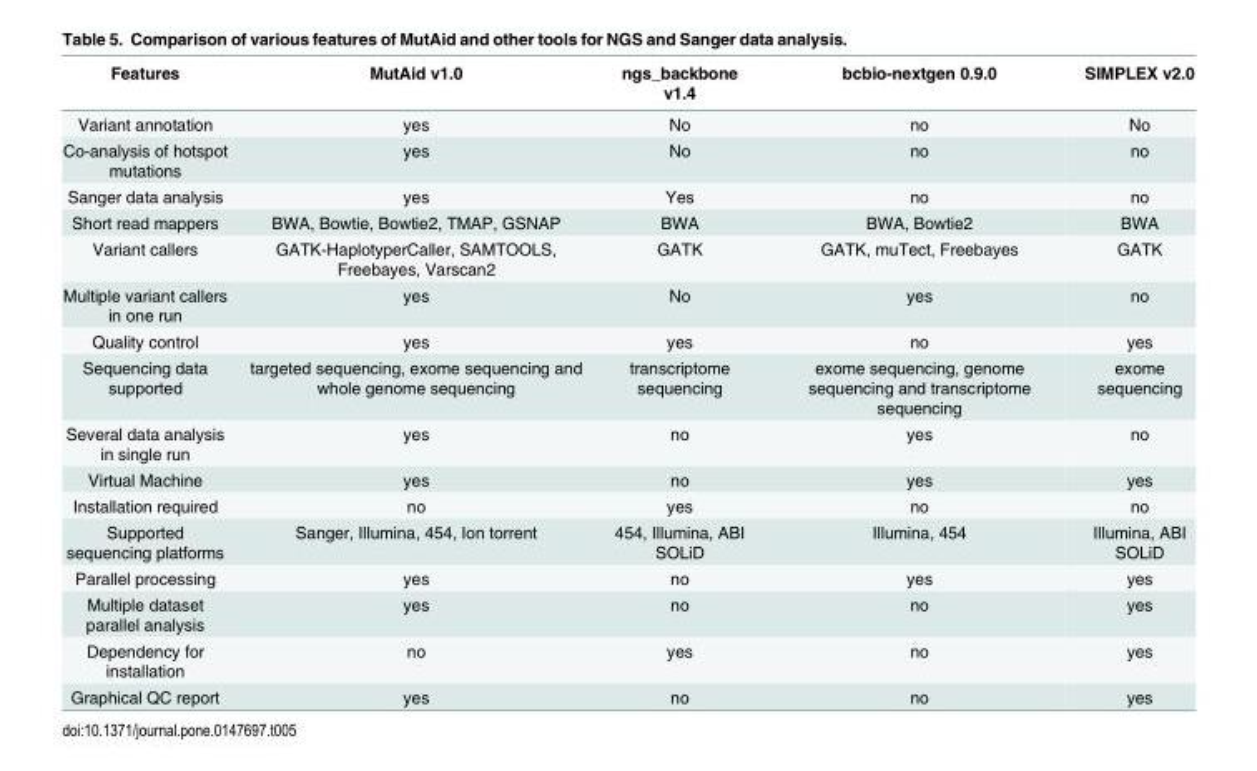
<table><thead><tr><td>Features</td><td>MutAid v1.0</td><td>ngs_backbone v1.4</td><td>bcbio-nextgen 0.9.0</td><td>SIMPLEX v2.0</td></tr></thead><tbody><tr><td>Variant annotation</td><td>yes</td><td>No</td><td>no</td><td>No</td></tr><tr><td>Co-analysis of hotspot mutations</td><td>yes</td><td>No</td><td>no</td><td>no</td></tr><tr><td>Sanger data analysis</td><td>yes</td><td>Yes</td><td>no</td><td>no</td></tr><tr><td>Short read mappers</td><td>BWA, Bowtie, Bowtie2, TMAP, GSNAP</td><td>BWA</td><td>BWA, Bowtie2</td><td>BWA</td></tr><tr><td>Variant callers</td><td>GATK-HaplotyperCaller, SAMTOOLS, Freebayes, Varscan2</td><td>GATK</td><td>GATK, muTect, Freebayes</td><td>GATK</td></tr><tr><td>Multiple variant callers in one run</td><td>yes</td><td>No</td><td>yes</td><td>no</td></tr><tr><td>Quality control</td><td>yes</td><td>yes</td><td>no</td><td>yes</td></tr><tr><td>Sequencing data supported</td><td>targeted sequencing, exome sequencing and whole genome sequencing</td><td>transcriptome sequencing</td><td>exome sequencing, genome sequencing and transcriptome sequencing</td><td>exome sequencing</td></tr><tr><td>Several data analysis in single run</td><td>yes</td><td>no</td><td>yes</td><td>no</td></tr><tr><td>Virtual Machine</td><td>yes</td><td>no</td><td>yes</td><td>yes</td></tr><tr><td>Installation required</td><td>no</td><td>yes</td><td>no</td><td>no</td></tr><tr><td>Supported sequencing platforms</td><td>Sanger, Illumina, 454, Ion torrent</td><td>454, Illumina, ABI SOLiD</td><td>Illumina, 454</td><td>Illumina, ABI SOLiD</td></tr><tr><td>Parallel processing</td><td>yes</td><td>no</td><td>yes</td><td>yes</td></tr><tr><td>Multiple dataset parallel analysis</td><td>yes</td><td>no</td><td>no</td><td>yes</td></tr><tr><td>Dependency for installation</td><td>no</td><td>yes</td><td>no</td><td>yes</td></tr><tr><td>Graphical QC report</td><td>yes</td><td>no</td><td>no</td><td>yes</td></tr></tbody></table>